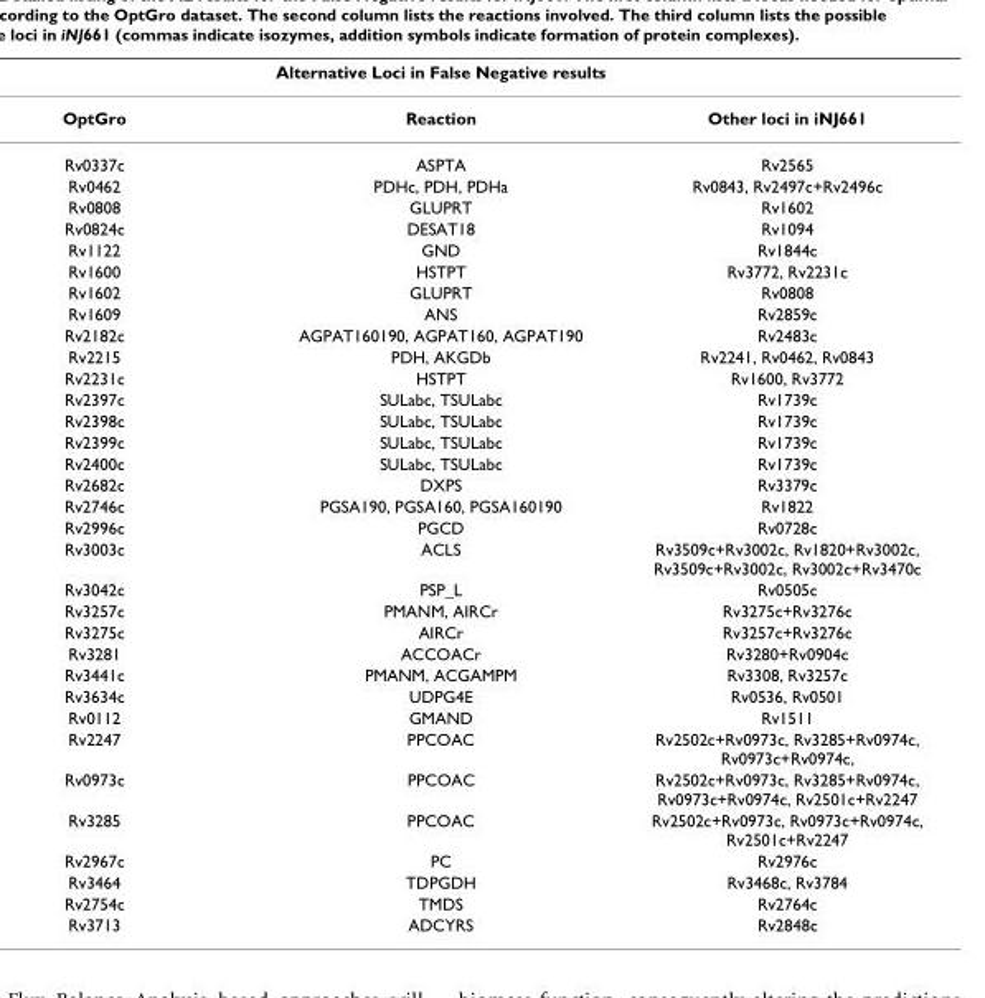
<table><thead><tr><td colspan="3">Alternative Loci in False Negative results</td></tr><tr><td>OptGro</td><td>Reaction</td><td>Other loci in iNJ661</td></tr></thead><tbody><tr><td>Rv0337c</td><td>ASPTA</td><td>Rv2565</td></tr><tr><td>Rv0462</td><td>PDHc, PDH, PDHa</td><td>Rv0843, Rv2497c+Rv2496c</td></tr><tr><td>Rv0808</td><td>GLUPRT</td><td>Rv1602</td></tr><tr><td>Rv0824c</td><td>DESAT18</td><td>Rv1094</td></tr><tr><td>Rv1122</td><td>GND</td><td>Rv1844c</td></tr><tr><td>Rv1600</td><td>HSTPT</td><td>Rv3772, Rv2231c</td></tr><tr><td>Rv1602</td><td>GLUPRT</td><td>Rv0808</td></tr><tr><td>Rv1609</td><td>ANS</td><td>Rv2859c</td></tr><tr><td>Rv2182c</td><td>AGPAT160190, AGPAT160, AGPAT190</td><td>Rv2483c</td></tr><tr><td>Rv2215</td><td>PDH, AKGDb</td><td>Rv2241, Rv0462, Rv0843</td></tr><tr><td>Rv2231c</td><td>HSTPT</td><td>Rv1600, Rv3772</td></tr><tr><td>Rv2397c</td><td>SULabc, TSULabc</td><td>Rv1739c</td></tr><tr><td>Rv2398c</td><td>SULabc, TSULabc</td><td>Rv1739c</td></tr><tr><td>Rv2399c</td><td>SULabc, TSULabc</td><td>Rv1739c</td></tr><tr><td>Rv2400c</td><td>SULabc, TSULabc</td><td>Rv1739c</td></tr><tr><td>Rv2682c</td><td>DXPS</td><td>Rv3379c</td></tr><tr><td>Rv2746c</td><td>PGSA190, PGSA160, PGSA160190</td><td>Rv1822</td></tr><tr><td>Rv2996c</td><td>PGCD</td><td>Rv0728c</td></tr><tr><td>Rv3003c</td><td>ACLS</td><td>Rv3509c+Rv3002c, Rv1820+Rv3002c, Rv3509c+Rv3002c, Rv3002c+Rv3470c</td></tr><tr><td>Rv3042c</td><td>PSP_L</td><td>Rv0505c</td></tr><tr><td>Rv3257c</td><td>PMANM, AIRCr</td><td>Rv3275c+Rv3276c</td></tr><tr><td>Rv3275c</td><td>AIRCr</td><td>Rv3257c+Rv3276c</td></tr><tr><td>Rv3281</td><td>ACCOACr</td><td>Rv3280+Rv0904c</td></tr><tr><td>Rv3441c</td><td>PMANM, ACGAMPM</td><td>Rv3308, Rv3257c</td></tr><tr><td>Rv3634c</td><td>UDPG4E</td><td>Rv0536, Rv0501</td></tr><tr><td>Rv0112</td><td>GMAND</td><td>Rv1511</td></tr><tr><td>Rv2247</td><td>PPCOAC</td><td>Rv2502c+Rv0973c, Rv3285+Rv0974c, Rv0973c+Rv0974c,</td></tr><tr><td>Rv0973c</td><td>PPCOAC</td><td>Rv2502c+Rv0973c, Rv3285+Rv0974c, Rv0973c+Rv0974c, Rv2501c+Rv2247</td></tr><tr><td>Rv3285</td><td>PPCOAC</td><td>Rv2502c+Rv0973c, Rv0973c+Rv0974c, Rv2501c+Rv2247</td></tr><tr><td>Rv2967c</td><td>PC</td><td>Rv2976c</td></tr><tr><td>Rv3464</td><td>TDPGDH</td><td>Rv3468c, Rv3784</td></tr><tr><td>Rv2754c</td><td>TMDS</td><td>Rv2764c</td></tr><tr><td>Rv3713</td><td>ADCYRS</td><td>Rv2848c</td></tr></tbody></table>